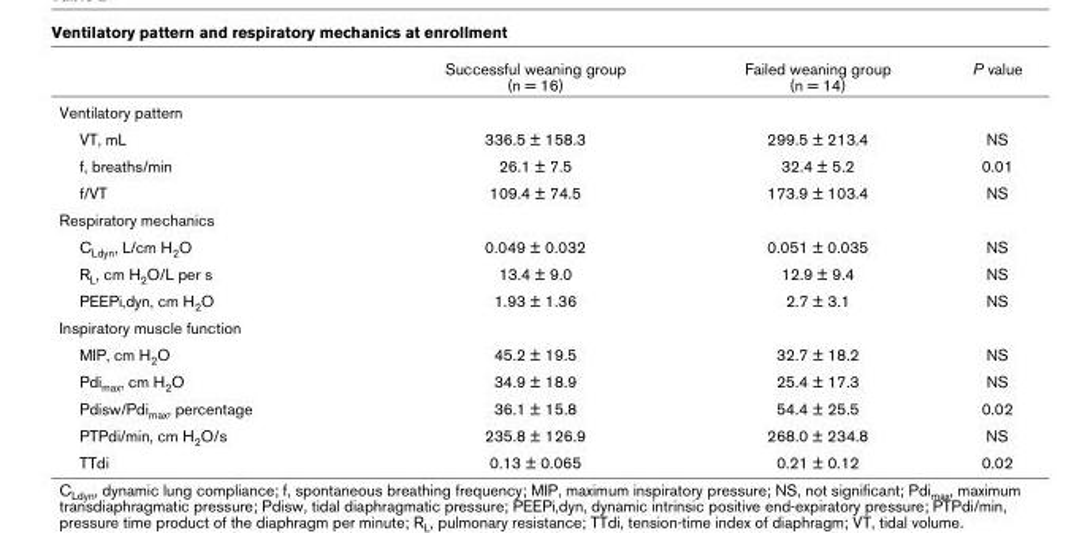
<table><thead><tr><td></td><td>Successful weaning group (n = 16)</td><td>Failed weaning group (n = 14)</td><td>P value</td></tr></thead><tbody><tr><td colspan="4">Ventilatory pattern</td></tr><tr><td>VT, mL</td><td>336.5 ± 158.3</td><td>299.5 ± 213.4</td><td>NS</td></tr><tr><td>f, breaths/min</td><td>26.1 ± 7.5</td><td>32.4 ± 5.2</td><td>0.01</td></tr><tr><td>f/VT</td><td>109.4 ± 74.5</td><td>173.9 ± 103.4</td><td>NS</td></tr><tr><td colspan="4">Respiratory mechanics</td></tr><tr><td>C<sub>Ldyn</sub>, L/cm H<sub>2</sub>O</td><td>0.049 ± 0.032</td><td>0.051 ± 0.035</td><td>NS</td></tr><tr><td>R<sub>L</sub>, cm H<sub>2</sub>O/L per s</td><td>13.4 ± 9.0</td><td>12.9 ± 9.4</td><td>NS</td></tr><tr><td>PEEPi,dyn, cm H<sub>2</sub>O</td><td>1.93 ± 1.36</td><td>2.7 ± 3.1</td><td>NS</td></tr><tr><td colspan="4">Inspiratory muscle function</td></tr><tr><td>MIP, cm H<sub>2</sub>O</td><td>45.2 ± 19.5</td><td>32.7 ± 18.2</td><td>NS</td></tr><tr><td>Pdi<sub>max</sub>, cm H<sub>2</sub>O</td><td>34.9 ± 18.9</td><td>25.4 ± 17.3</td><td>NS</td></tr><tr><td>Pdisw/Pdi<sub>max</sub>, percentage</td><td>36.1 ± 15.8</td><td>54.4 ± 25.5</td><td>0.02</td></tr><tr><td>PTPdi/min, cm H<sub>2</sub>O/s</td><td>235.8 ± 126.9</td><td>268.0 ± 234.8</td><td>NS</td></tr><tr><td>TTdi</td><td>0.13 ± 0.065</td><td>0.21 ± 0.12</td><td>0.02</td></tr></tbody></table>